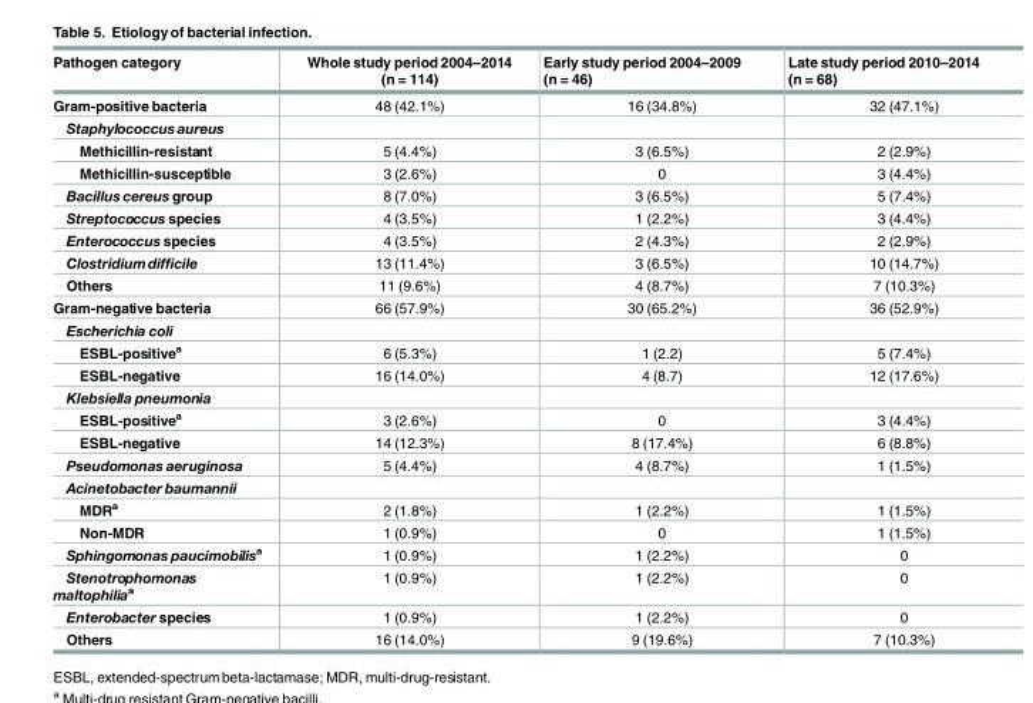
<table><thead><tr><td>Pathogen category</td><td>Whole study period 2004–2014 (n = 114)</td><td>Early study period 2004–2009 (n = 46)</td><td>Late study period 2010–2014 (n = 68)</td></tr></thead><tbody><tr><td>Gram-positive bacteria</td><td>48 (42.1%)</td><td>16 (34.8%)</td><td>32 (47.1%)</td></tr><tr><td colspan="4">Staphylococcus aureus</td></tr><tr><td>Methicillin-resistant</td><td>5 (4.4%)</td><td>3 (6.5%)</td><td>2 (2.9%)</td></tr><tr><td>Methicillin-susceptible</td><td>3 (2.6%)</td><td>0</td><td>3 (4.4%)</td></tr><tr><td>Bacillus cereus group</td><td>8 (7.0%)</td><td>3 (6.5%)</td><td>5 (7.4%)</td></tr><tr><td>Streptococcus species</td><td>4 (3.5%)</td><td>1 (2.2%)</td><td>3 (4.4%)</td></tr><tr><td>Enterococcus species</td><td>4 (3.5%)</td><td>2 (4.3%)</td><td>2 (2.9%)</td></tr><tr><td>Clostridiumdifficile</td><td>13 (11.4%)</td><td>3 (6.5%)</td><td>10 (14.7%)</td></tr><tr><td>Others</td><td>11 (9.6%)</td><td>4 (8.7%)</td><td>7 (10.3%)</td></tr><tr><td>Gram-negative bacteria</td><td>66 (57.9%)</td><td>30 (65.2%)</td><td>36 (52.9%)</td></tr><tr><td colspan="4">Escherichia coli</td></tr><tr><td>ESBL-positive<sup>a</sup></td><td>6 (5.3%)</td><td>1 (2.2)</td><td>5 (7.4%)</td></tr><tr><td>ESBL-negative</td><td>16 (14.0%)</td><td>4 (8.7)</td><td>12 (17.6%)</td></tr><tr><td colspan="4">Klebsiella pneumonia</td></tr><tr><td>ESBL-positive<sup>a</sup></td><td>3 (2.6%)</td><td>0</td><td>3 (4.4%)</td></tr><tr><td>ESBL-negative</td><td>14 (12.3%)</td><td>8 (17.4%)</td><td>6 (8.8%)</td></tr><tr><td>Pseudomonas aeruginosa</td><td>5 (4.4%)</td><td>4 (8.7%)</td><td>1 (1.5%)</td></tr><tr><td colspan="4">Acinetobacter baumannii</td></tr><tr><td>MDR<sup>a</sup></td><td>2 (1.8%)</td><td>1 (2.2%)</td><td>1 (1.5%)</td></tr><tr><td>Non-MDR</td><td>1 (0.9%)</td><td>0</td><td>1 (1.5%)</td></tr><tr><td>Sphingomonas paucimobilis<sup>a</sup></td><td>1 (0.9%)</td><td>1 (2.2%)</td><td>0</td></tr><tr><td>Stenotrophomonas maltophilia<sup>a</sup></td><td>1 (0.9%)</td><td>1 (2.2%)</td><td>0</td></tr><tr><td>Enterobacter species</td><td>1 (0.9%)</td><td>1 (2.2%)</td><td>0</td></tr><tr><td>Others</td><td>16 (14.0%)</td><td>9 (19.6%)</td><td>7 (10.3%)</td></tr></tbody></table>